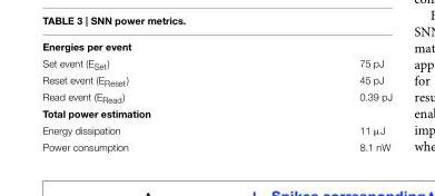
<table><tbody><tr><td colspan="2">Energies per event</td></tr><tr><td>Set event (E<sub>Set</sub>)</td><td>75 pJ</td></tr><tr><td>Reset event (E<sub>Reset</sub>)</td><td>45 pJ</td></tr><tr><td>Read event (E<sub>Read</sub>)</td><td>0.39 pJ</td></tr><tr><td colspan="2">Total power estimation</td></tr><tr><td>Energy dissipation</td><td>11 µJ</td></tr><tr><td>Power consumption</td><td>8.1 nW</td></tr></tbody></table>